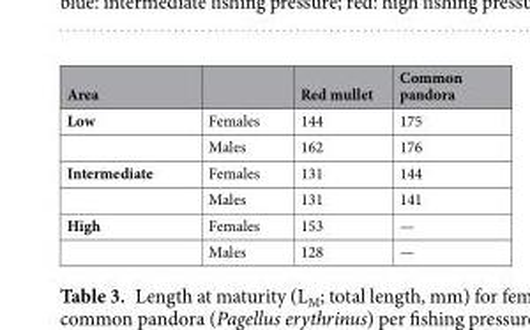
<table><thead><tr><td>Area</td><td></td><td>Red mullet</td><td>Common pandora</td></tr></thead><tbody><tr><td rowspan="2">Low</td><td>Females</td><td>144</td><td>175</td></tr><tr><td>Males</td><td>162</td><td>176</td></tr><tr><td rowspan="2">Intermediate</td><td>Females</td><td>131</td><td>144</td></tr><tr><td>Males</td><td>131</td><td>141</td></tr><tr><td rowspan="2">High</td><td>Females</td><td>153</td><td>—</td></tr><tr><td>Males</td><td>128</td><td>—</td></tr></tbody></table>